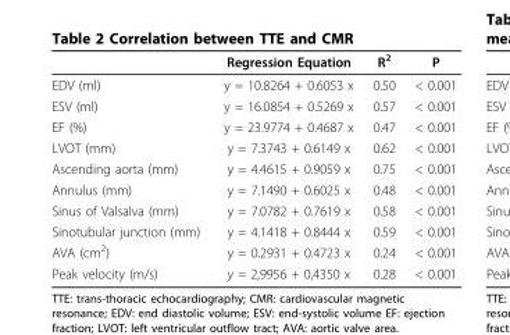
<table><thead><tr><td></td><td>Regression Equation</td><td>R<sup>2</sup></td><td>P</td></tr></thead><tbody><tr><td>EDV (ml)</td><td>y = 10.8264 + 0.6053 x</td><td>0.50</td><td>&lt; 0.001</td></tr><tr><td>ESV (ml)</td><td>y = 16.0854 + 0.5269 x</td><td>0.57</td><td>&lt; 0.001</td></tr><tr><td>EF (%)</td><td>y = 23.9774 + 0.4687 x</td><td>0.47</td><td>&lt; 0.001</td></tr><tr><td>LVOT (mm)</td><td>y = 7.3743 + 0.6149 x</td><td>0.62</td><td>&lt; 0.001</td></tr><tr><td>Ascending aorta (mm)</td><td>y = 4.4615 + 0.9059 x</td><td>0.75</td><td>&lt; 0.001</td></tr><tr><td>Annulus (mm)</td><td>y = 7.1490 + 0.6025 x</td><td>0.48</td><td>&lt; 0.001</td></tr><tr><td>Sinus of Valsalva (mm)</td><td>y = 7.0782 + 0.7619 x</td><td>0.58</td><td>&lt; 0.001</td></tr><tr><td>Sinotubular junction (mm)</td><td>y = 4.1418 + 0.8444 x</td><td>0.59</td><td>&lt; 0.001</td></tr><tr><td>AVA (cm<sup>2</sup>)</td><td>y = 0.2931 + 0.4723 x</td><td>0.24</td><td>&lt; 0.001</td></tr><tr><td>Peak velocity (m/s)</td><td>y = 2,9956 + 0,4350 x</td><td>0.28</td><td>&lt; 0.001</td></tr></tbody></table>